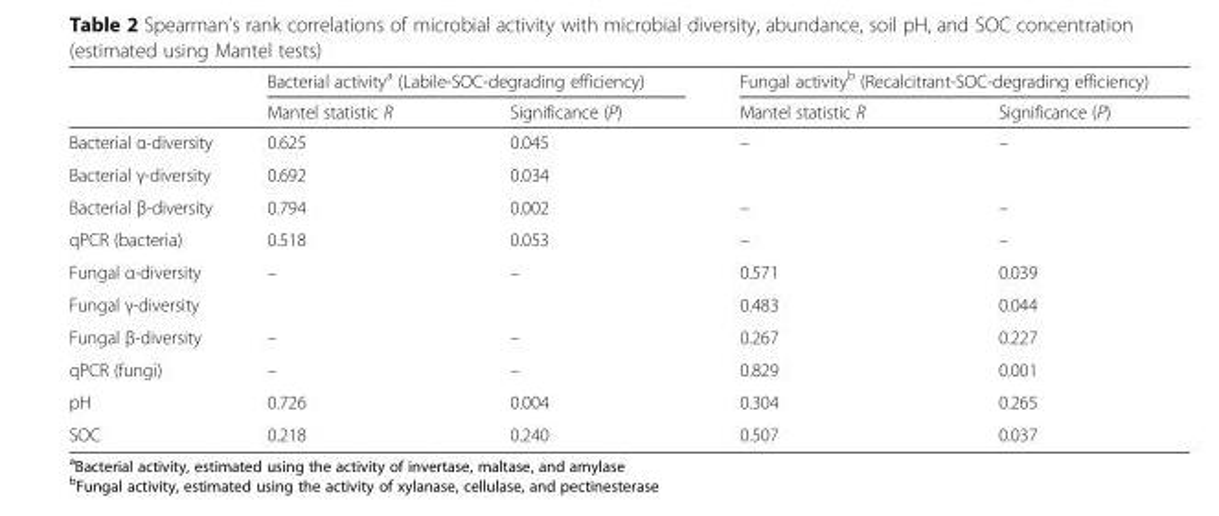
<table><thead><tr><td rowspan="2"></td><td colspan="2">Bacterial activity<sup>a</sup> (Labile-SOC-degrading efficiency)</td><td colspan="2">Fungal activity<sup>b</sup> (Recalcitrant-SOC-degrading efficiency)</td></tr><tr><td>Mantel statistic R</td><td>Significance (P)</td><td>Mantel statistic R</td><td>Significance (P)</td></tr></thead><tbody><tr><td>Bacterial α-diversity</td><td>0.625</td><td>0.045</td><td>–</td><td>–</td></tr><tr><td>Bacterial γ-diversity</td><td>0.692</td><td>0.034</td><td></td><td></td></tr><tr><td>Bacterial β-diversity</td><td>0.794</td><td>0.002</td><td>–</td><td>–</td></tr><tr><td>qPCR (bacteria)</td><td>0.518</td><td>0.053</td><td>–</td><td>–</td></tr><tr><td>Fungal α-diversity</td><td>–</td><td>–</td><td>0.571</td><td>0.039</td></tr><tr><td>Fungal γ-diversity</td><td></td><td></td><td>0.483</td><td>0.044</td></tr><tr><td>Fungal β-diversity</td><td>–</td><td>–</td><td>0.267</td><td>0.227</td></tr><tr><td>qPCR (fungi)</td><td>–</td><td>–</td><td>0.829</td><td>0.001</td></tr><tr><td>pH</td><td>0.726</td><td>0.004</td><td>0.304</td><td>0.265</td></tr><tr><td>SOC</td><td>0.218</td><td>0.240</td><td>0.507</td><td>0.037</td></tr></tbody></table>